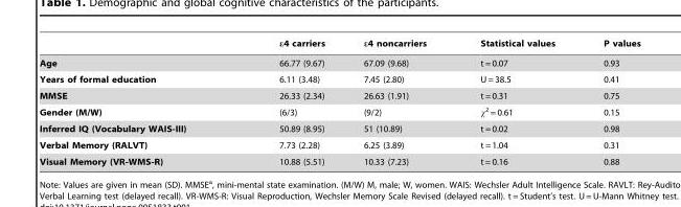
<table><thead><tr><td></td><td>ε4 carriers</td><td>ε4 noncarriers</td><td>Statistical values</td><td>P values</td></tr></thead><tbody><tr><td>Age</td><td>66.77 (9.67)</td><td>67.09 (9.68)</td><td>t = 0.07</td><td>0.93</td></tr><tr><td>Years of formal education</td><td>6.11 (3.48)</td><td>7.45 (2.80)</td><td>U = 38.5</td><td>0.41</td></tr><tr><td>MMSE</td><td>26.33 (2.34)</td><td>26.63 (1.91)</td><td>t = 0.31</td><td>0.75</td></tr><tr><td>Gender (M/W)</td><td>(6/3)</td><td>(9/2)</td><td>χ<sup>2</sup> = 0.61</td><td>0.15</td></tr><tr><td>Inferred IQ (Vocabulary WAIS-III)</td><td>50.89 (8.95)</td><td>51 (10.89)</td><td>t = 0.02</td><td>0.98</td></tr><tr><td>Verbal Memory (RALVT)</td><td>7.73 (2.28)</td><td>6.25 (3.89)</td><td>t = 1.04</td><td>0.31</td></tr><tr><td>Visual Memory (VR-WMS-R)</td><td>10.88 (5.51)</td><td>10.33 (7.23)</td><td>t = 0.16</td><td>0.88</td></tr></tbody></table>